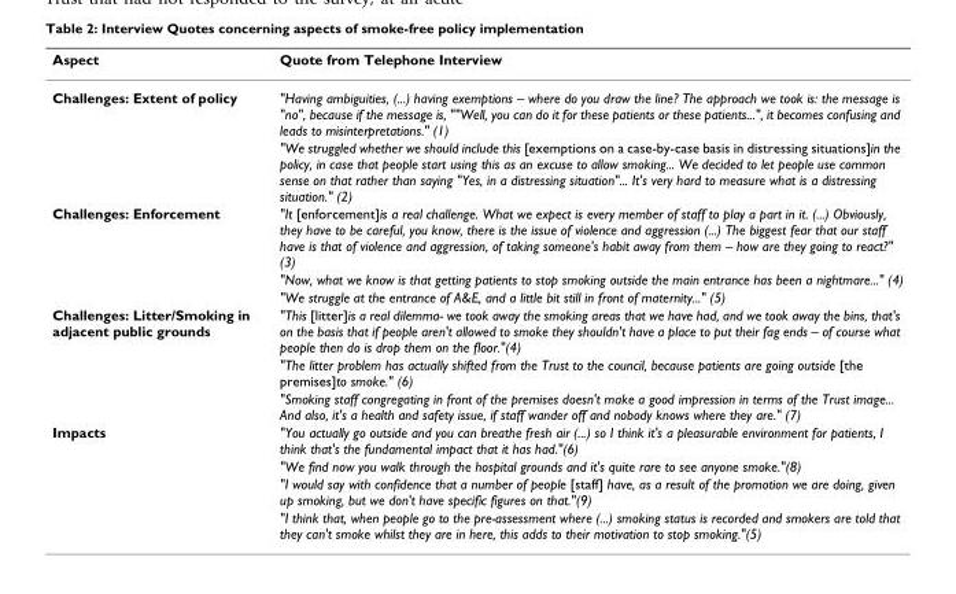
<table><thead><tr><td>Aspect</td><td>Quote from Telephone Interview</td></tr></thead><tbody><tr><td rowspan="2">Challenges: Extent of policy</td><td>&quot;Having ambiguities, (...) having exemptions – where do you draw the line? The approach we took is: the message is &quot;no&quot;, because if the message is, &quot;&quot;Well, you can do it for these patients or these patients...&quot;, it becomes confusing and leads to misinterpretations.&quot; (1)</td></tr><tr><td>&quot;We struggled whether we should include this [exemptions on a case-by-case basis in distressing situations]in the policy, in case that people start using this as an excuse to allow smoking... We decided to let people use common sense on that rather than saying &quot;Yes, in a distressing situation&quot;... It&#x27;s very hard to measure what is a distressing situation.&quot; (2)</td></tr><tr><td rowspan="3">Challenges: Enforcement</td><td>&quot;It [enforcement]is a real challenge. What we expect is every member of staff to play a part in it. (...) Obviously, they have to be careful, you know, there is the issue of violence and aggression (...) The biggest fear that our staff have is that of violence and aggression, of taking someone&#x27;s habit away from them – how are they going to react?&quot; (3)</td></tr><tr><td>&quot;Now, what we know is that getting patients to stop smoking outside the main entrance has been a nightmare...&quot; (4)</td></tr><tr><td>&quot;We struggle at the entrance of A&amp;E, and a little bit still in front of maternity...&quot; (5)</td></tr><tr><td rowspan="3">Challenges: Litter/Smoking in adjacent public grounds</td><td>&quot;This [litter]is a real dilemma- we took away the smoking areas that we have had, and we took away the bins, that&#x27;s on the basis that if people aren&#x27;t allowed to smoke they shouldn&#x27;t have a place to put their fag ends – of course what people then do is drop them on the floor.&quot;(4)</td></tr><tr><td>&quot;The litter problem has actually shifted from the Trust to the council, because patients are going outside [the premises]to smoke.&quot; (6)</td></tr><tr><td>&quot;Smoking staff congregating in front of the premises doesn&#x27;t make a good impression in terms of the Trust image... And also, it&#x27;s a health and safety issue, if staff wander off and nobody knows where they are.&quot; (7)</td></tr><tr><td rowspan="4">Impacts</td><td>&quot;You actually go outside and you can breathe fresh air (...) so I think it&#x27;s a pleasurable environment for patients, I think that&#x27;s the fundamental impact that it has had.&quot;(6)</td></tr><tr><td>&quot;We find now you walk through the hospital grounds and it&#x27;s quite rare to see anyone smoke.&quot;(8)</td></tr><tr><td>&quot;I would say with confidence that a number of people [staff] have, as a result of the promotion we are doing, given up smoking, but we don&#x27;t have specific figures on that.&quot;(9)</td></tr><tr><td>&quot;I think that, when people go to the pre-assessment where (...) smoking status is recorded and smokers are told that they can&#x27;t smoke whilst they are in here, this adds to their motivation to stop smoking.&quot;(5)</td></tr></tbody></table>